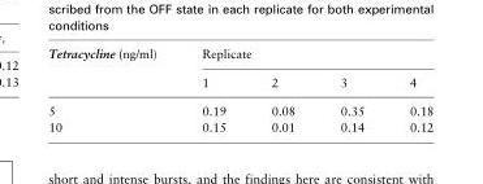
<table><thead><tr><td rowspan="2">Tetracycline (ng/ml)</td><td colspan="4">Replicate</td></tr><tr><td>1</td><td>2</td><td>3</td><td>4</td></tr></thead><tbody><tr><td>5</td><td>0.19</td><td>0.08</td><td>0.35</td><td>0.18</td></tr><tr><td>10</td><td>0.15</td><td>0.01</td><td>0.14</td><td>0.12</td></tr></tbody></table>